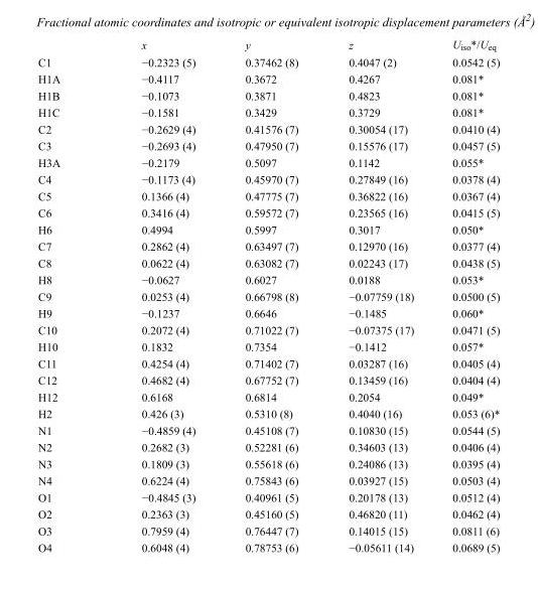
<table><thead><tr><td></td><td>x</td><td>y</td><td>z</td><td>U<sub>iso</sub>*/U<sub>eq</sub></td></tr></thead><tbody><tr><td>C1</td><td>−0.2323 (5)</td><td>0.37462 (8)</td><td>0.4047 (2)</td><td>0.0542 (5)</td></tr><tr><td>H1A</td><td>−0.4117</td><td>0.3672</td><td>0.4267</td><td>0.081*</td></tr><tr><td>H1B</td><td>−0.1073</td><td>0.3871</td><td>0.4823</td><td>0.081*</td></tr><tr><td>H1C</td><td>−0.1581</td><td>0.3429</td><td>0.3729</td><td>0.081*</td></tr><tr><td>C2</td><td>−0.2629 (4)</td><td>0.41576 (7)</td><td>0.30054 (17)</td><td>0.0410 (4)</td></tr><tr><td>C3</td><td>−0.2693 (4)</td><td>0.47950 (7)</td><td>0.15576 (17)</td><td>0.0457 (5)</td></tr><tr><td>H3A</td><td>−0.2179</td><td>0.5097</td><td>0.1142</td><td>0.055*</td></tr><tr><td>C4</td><td>−0.1173 (4)</td><td>0.45970 (7)</td><td>0.27849 (16)</td><td>0.0378 (4)</td></tr><tr><td>C5</td><td>0.1366 (4)</td><td>0.47775 (7)</td><td>0.36822 (16)</td><td>0.0367 (4)</td></tr><tr><td>C6</td><td>0.3416 (4)</td><td>0.59572 (7)</td><td>0.23565 (16)</td><td>0.0415 (5)</td></tr><tr><td>H6</td><td>0.4994</td><td>0.5997</td><td>0.3017</td><td>0.050*</td></tr><tr><td>C7</td><td>0.2862 (4)</td><td>0.63497 (7)</td><td>0.12970 (16)</td><td>0.0377 (4)</td></tr><tr><td>C8</td><td>0.0622 (4)</td><td>0.63082 (7)</td><td>0.02243 (17)</td><td>0.0438 (5)</td></tr><tr><td>H8</td><td>−0.0627</td><td>0.6027</td><td>0.0188</td><td>0.053*</td></tr><tr><td>C9</td><td>0.0253 (4)</td><td>0.66798 (8)</td><td>−0.07759 (18)</td><td>0.0500 (5)</td></tr><tr><td>H9</td><td>−0.1237</td><td>0.6646</td><td>−0.1485</td><td>0.060*</td></tr><tr><td>C10</td><td>0.2072 (4)</td><td>0.71022 (7)</td><td>−0.07375 (17)</td><td>0.0471 (5)</td></tr><tr><td>H10</td><td>0.1832</td><td>0.7354</td><td>−0.1412</td><td>0.057*</td></tr><tr><td>C11</td><td>0.4254 (4)</td><td>0.71402 (7)</td><td>0.03287 (16)</td><td>0.0405 (4)</td></tr><tr><td>C12</td><td>0.4682 (4)</td><td>0.67752 (7)</td><td>0.13459 (16)</td><td>0.0404 (4)</td></tr><tr><td>H12</td><td>0.6168</td><td>0.6814</td><td>0.2054</td><td>0.049*</td></tr><tr><td>H2</td><td>0.426 (3)</td><td>0.5310 (8)</td><td>0.4040 (16)</td><td>0.053 (6)*</td></tr><tr><td>N1</td><td>−0.4859 (4)</td><td>0.45108 (7)</td><td>0.10830 (15)</td><td>0.0544 (5)</td></tr><tr><td>N2</td><td>0.2682 (3)</td><td>0.52281 (6)</td><td>0.34603 (13)</td><td>0.0406 (4)</td></tr><tr><td>N3</td><td>0.1809 (3)</td><td>0.55618 (6)</td><td>0.24086 (13)</td><td>0.0395 (4)</td></tr><tr><td>N4</td><td>0.6224 (4)</td><td>0.75843 (6)</td><td>0.03927 (15)</td><td>0.0503 (4)</td></tr><tr><td>O1</td><td>−0.4845 (3)</td><td>0.40961 (5)</td><td>0.20178 (13)</td><td>0.0512 (4)</td></tr><tr><td>O2</td><td>0.2363 (3)</td><td>0.45160 (5)</td><td>0.46820 (11)</td><td>0.0462 (4)</td></tr><tr><td>O3</td><td>0.7959 (4)</td><td>0.76447 (7)</td><td>0.14015 (15)</td><td>0.0811 (6)</td></tr><tr><td>O4</td><td>0.6048 (4)</td><td>0.78753 (6)</td><td>−0.05611 (14)</td><td>0.0689 (5)</td></tr></tbody></table>